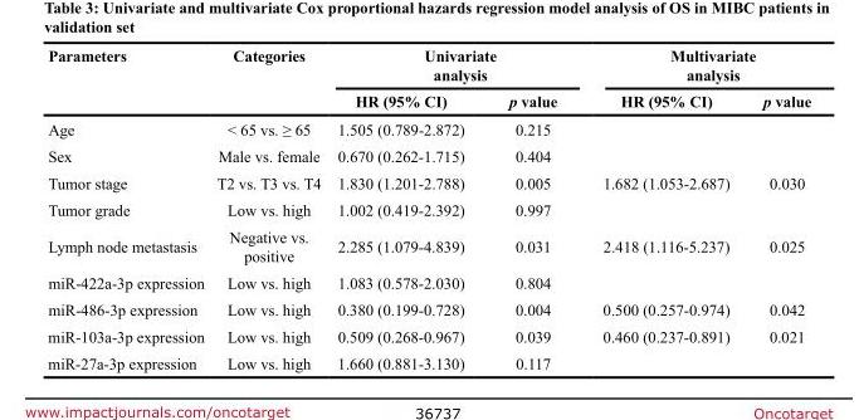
<table><thead><tr><td rowspan="2">Parameters</td><td rowspan="2">Categories</td><td colspan="2">Univariate analysis</td><td colspan="2">Multivariate analysis</td></tr><tr><td>HR (95% CI)</td><td>p value</td><td>HR (95% CI)</td><td>p value</td></tr></thead><tbody><tr><td>Age</td><td>&lt; 65 vs. ≥ 65</td><td>1.505 (0.789-2.872)</td><td>0.215</td><td></td><td></td></tr><tr><td>Sex</td><td>Male vs. female</td><td>0.670 (0.262-1.715)</td><td>0.404</td><td></td><td></td></tr><tr><td>Tumor stage</td><td>T2 vs. T3 vs. T4</td><td>1.830 (1.201-2.788)</td><td>0.005</td><td>1.682 (1.053-2.687)</td><td>0.030</td></tr><tr><td>Tumor grade</td><td>Low vs. high</td><td>1.002 (0.419-2.392)</td><td>0.997</td><td></td><td></td></tr><tr><td>Lymph node metastasis</td><td>Negative vs. positive</td><td>2.285 (1.079-4.839)</td><td>0.031</td><td>2.418 (1.116-5.237)</td><td>0.025</td></tr><tr><td>miR-422a-3p expression</td><td>Low vs. high</td><td>1.083 (0.578-2.030)</td><td>0.804</td><td></td><td></td></tr><tr><td>miR-486-3p expression</td><td>Low vs. high</td><td>0.380 (0.199-0.728)</td><td>0.004</td><td>0.500 (0.257-0.974)</td><td>0.042</td></tr><tr><td>miR-103a-3p expression</td><td>Low vs. high</td><td>0.509 (0.268-0.967)</td><td>0.039</td><td>0.460 (0.237-0.891)</td><td>0.021</td></tr><tr><td>miR-27a-3p expression</td><td>Low vs. high</td><td>1.660 (0.881-3.130)</td><td>0.117</td><td></td><td></td></tr></tbody></table>